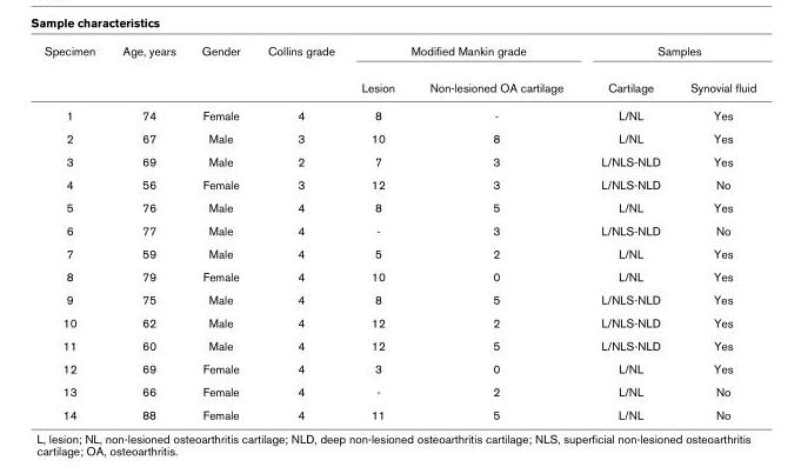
<table><thead><tr><td rowspan="2">Specimen</td><td rowspan="2">Age, years</td><td rowspan="2">Gender</td><td rowspan="2">Collins grade</td><td colspan="2">Modified Mankin grade</td><td colspan="2">Samples</td></tr><tr><td>Lesion</td><td>Non-lesioned OA cartilage</td><td>Cartilage</td><td>Synovial fluid</td></tr></thead><tbody><tr><td>1</td><td>74</td><td>Female</td><td>4</td><td>8</td><td>-</td><td>L/NL</td><td>Yes</td></tr><tr><td>2</td><td>67</td><td>Male</td><td>3</td><td>10</td><td>8</td><td>L/NL</td><td>Yes</td></tr><tr><td>3</td><td>69</td><td>Male</td><td>2</td><td>7</td><td>3</td><td>L/NLS-NLD</td><td>Yes</td></tr><tr><td>4</td><td>56</td><td>Female</td><td>3</td><td>12</td><td>3</td><td>L/NLS-NLD</td><td>No</td></tr><tr><td>5</td><td>76</td><td>Male</td><td>4</td><td>8</td><td>5</td><td>L/NL</td><td>Yes</td></tr><tr><td>6</td><td>77</td><td>Male</td><td>4</td><td>-</td><td>3</td><td>L/NLS-NLD</td><td>No</td></tr><tr><td>7</td><td>59</td><td>Male</td><td>4</td><td>5</td><td>2</td><td>L/NL</td><td>Yes</td></tr><tr><td>8</td><td>79</td><td>Female</td><td>4</td><td>10</td><td>0</td><td>L/NL</td><td>Yes</td></tr><tr><td>9</td><td>75</td><td>Male</td><td>4</td><td>8</td><td>5</td><td>L/NLS-NLD</td><td>Yes</td></tr><tr><td>10</td><td>62</td><td>Male</td><td>4</td><td>12</td><td>2</td><td>L/NLS-NLD</td><td>Yes</td></tr><tr><td>11</td><td>60</td><td>Male</td><td>4</td><td>12</td><td>5</td><td>L/NLS-NLD</td><td>Yes</td></tr><tr><td>12</td><td>69</td><td>Female</td><td>4</td><td>3</td><td>0</td><td>L/NL</td><td>Yes</td></tr><tr><td>13</td><td>66</td><td>Female</td><td>4</td><td>-</td><td>2</td><td>L/NL</td><td>No</td></tr><tr><td>14</td><td>88</td><td>Female</td><td>4</td><td>11</td><td>5</td><td>L/NL</td><td>No</td></tr></tbody></table>